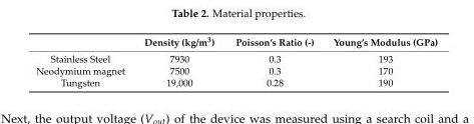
<table><thead><tr><td></td><td>Density (kg/m<sup>3</sup>)</td><td>Poisson’s Ratio (-)</td><td>Young’s Modulus (GPa)</td></tr></thead><tbody><tr><td>Stainless Steel</td><td>7930</td><td>0.3</td><td>193</td></tr><tr><td>Neodymium magnet</td><td>7500</td><td>0.3</td><td>170</td></tr><tr><td>Tungsten</td><td>19,000</td><td>0.28</td><td>190</td></tr></tbody></table>